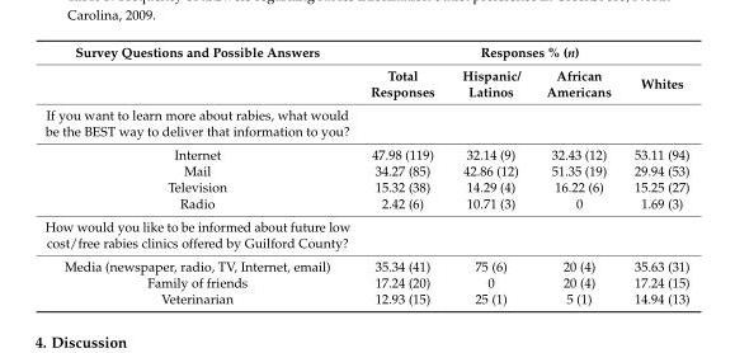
<table><thead><tr><td rowspan="2">Survey Questions and Possible Answers</td><td colspan="4">Responses % (n)</td></tr><tr><td>Total Responses</td><td>Hispanic/ Latinos</td><td>African Americans</td><td>Whites</td></tr></thead><tbody><tr><td colspan="5">If you want to learn more about rabies, what would be the BEST way to deliver that information to you?</td></tr><tr><td>Internet</td><td>47.98 (119)</td><td>32.14 (9)</td><td>32.43 (12)</td><td>53.11 (94)</td></tr><tr><td>Mail</td><td>34.27 (85)</td><td>42.86 (12)</td><td>51.35 (19)</td><td>29.94 (53)</td></tr><tr><td>Television</td><td>15.32 (38)</td><td>14.29 (4)</td><td>16.22 (6)</td><td>15.25 (27)</td></tr><tr><td>Radio</td><td>2.42 (6)</td><td>10.71 (3)</td><td>0</td><td>1.69 (3)</td></tr><tr><td colspan="5">How would you like to be informed about future low cost/free rabies clinics offered by Guilford County?</td></tr><tr><td>Media (newspaper, radio, TV, Internet, email)</td><td>35.34 (41)</td><td>75 (6)</td><td>20 (4)</td><td>35.63 (31)</td></tr><tr><td>Family of friends</td><td>17.24 (20)</td><td>0</td><td>20 (4)</td><td>17.24 (15)</td></tr><tr><td>Veterinarian</td><td>12.93 (15)</td><td>25 (1)</td><td>5 (1)</td><td>14.94 (13)</td></tr></tbody></table>